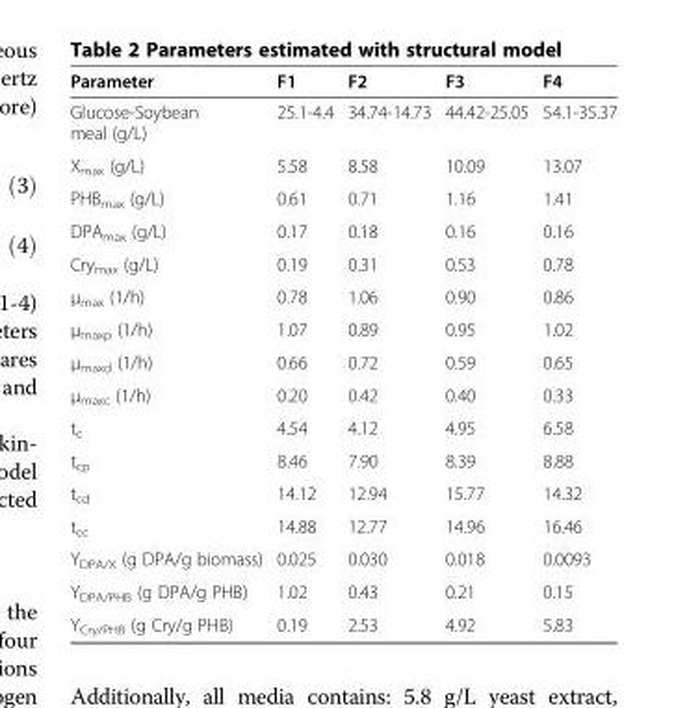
<table><thead><tr><td>Parameter</td><td>F1</td><td>F2</td><td>F3</td><td>F4</td></tr></thead><tbody><tr><td>Glucose-Soybean meal (g/L)</td><td>25.1-4.4</td><td>34.74-14.73</td><td>44.42-25.05</td><td>54.1-35.37</td></tr><tr><td>X<sub>max</sub> (g/L)</td><td>5.58</td><td>8.58</td><td>10.09</td><td>13.07</td></tr><tr><td>PHB<sub>max</sub> (g/L)</td><td>0.61</td><td>0.71</td><td>1.16</td><td>1.41</td></tr><tr><td>DPA<sub>max</sub> (g/L)</td><td>0.17</td><td>0.18</td><td>0.16</td><td>0.16</td></tr><tr><td>Cry<sub>max</sub> (g/L)</td><td>0.19</td><td>0.31</td><td>0.53</td><td>0.78</td></tr><tr><td>μ<sub>max</sub> (1/h)</td><td>0.78</td><td>1.06</td><td>0.90</td><td>0.86</td></tr><tr><td>μ<sub>maxp</sub> (1/h)</td><td>1.07</td><td>0.89</td><td>0.95</td><td>1.02</td></tr><tr><td>μ<sub>maxd</sub> (1/h)</td><td>0.66</td><td>0.72</td><td>0.59</td><td>0.65</td></tr><tr><td>μ<sub>maxc</sub> (1/h)</td><td>0.20</td><td>0.42</td><td>0.40</td><td>0.33</td></tr><tr><td>t<sub>c</sub></td><td>4.54</td><td>4.12</td><td>4.95</td><td>6.58</td></tr><tr><td>t<sub>cp</sub></td><td>8.46</td><td>7.90</td><td>8.39</td><td>8.88</td></tr><tr><td>t<sub>cd</sub></td><td>14.12</td><td>12.94</td><td>15.77</td><td>14.32</td></tr><tr><td>t<sub>cc</sub></td><td>14.88</td><td>12.77</td><td>14.96</td><td>16.46</td></tr><tr><td>Y<sub>DPA/X</sub> (g DPA/g biomass)</td><td>0.025</td><td>0.030</td><td>0.018</td><td>0.0093</td></tr><tr><td>Y<sub>DPA/PHB</sub> (g DPA/g PHB)</td><td>1.02</td><td>0.43</td><td>0.21</td><td>0.15</td></tr><tr><td>Y<sub>Cry/PHB</sub> (g Cry/g PHB)</td><td>0.19</td><td>2.53</td><td>4.92</td><td>5.83</td></tr></tbody></table>